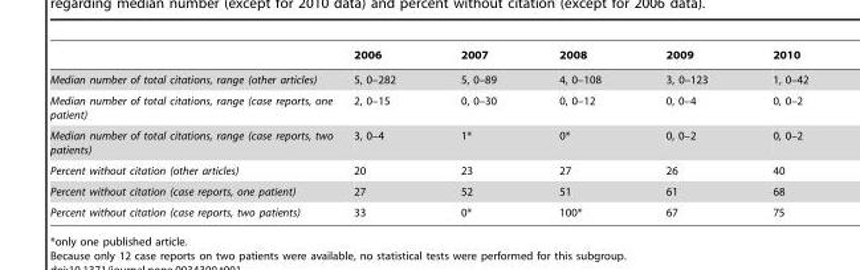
<table><thead><tr><td></td><td>2006</td><td>2007</td><td>2008</td><td>2009</td><td>2010</td></tr></thead><tbody><tr><td>Median number of total citations, range (other articles)</td><td>5, 0–282</td><td>5, 0–89</td><td>4, 0–108</td><td>3, 0–123</td><td>1, 0–42</td></tr><tr><td>Median number of total citations, range (case reports, one patient)</td><td>2, 0–15</td><td>0, 0–30</td><td>0, 0–12</td><td>0, 0–4</td><td>0, 0–2</td></tr><tr><td>Median number of total citations, range (case reports, two patients)</td><td>3, 0–4</td><td>1*</td><td>0*</td><td>0, 0–2</td><td>0, 0–2</td></tr><tr><td>Percent without citation (other articles)</td><td>20</td><td>23</td><td>27</td><td>26</td><td>40</td></tr><tr><td>Percent without citation (case reports, one patient)</td><td>27</td><td>52</td><td>51</td><td>61</td><td>68</td></tr><tr><td>Percent without citation (case reports, two patients)</td><td>33</td><td>0*</td><td>100*</td><td>67</td><td>75</td></tr></tbody></table>